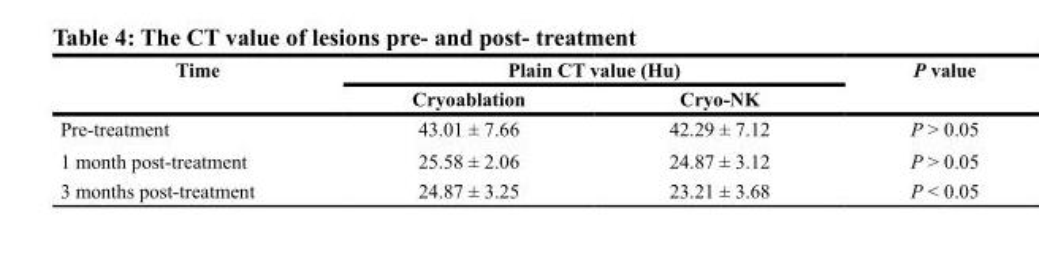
<table><thead><tr><td rowspan="2">Time</td><td colspan="2">Plain CT value (Hu)</td><td rowspan="2">P value</td></tr><tr><td>Cryoablation</td><td>Cryo-NK</td></tr></thead><tbody><tr><td>Pre-treatment</td><td>43.01 ± 7.66</td><td>42.29 ± 7.12</td><td>P &gt; 0.05</td></tr><tr><td>1 month post-treatment</td><td>25.58 ± 2.06</td><td>24.87 ± 3.12</td><td>P &gt; 0.05</td></tr><tr><td>3 months post-treatment</td><td>24.87 ± 3.25</td><td>23.21 ± 3.68</td><td>P &lt; 0.05</td></tr></tbody></table>